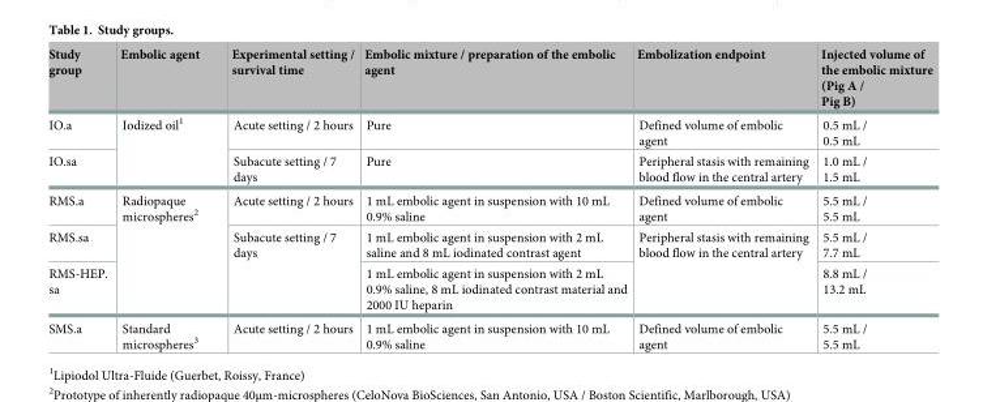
<table><thead><tr><td>Study group</td><td>Embolic agent</td><td>Experimental setting / survival time</td><td>Embolic mixture / preparation of the embolic agent</td><td>Embolization endpoint</td><td>Injected volume of the embolic mixture (Pig A / Pig B)</td></tr></thead><tbody><tr><td>IO.a</td><td rowspan="2">Iodized oil<sup>1</sup></td><td>Acute setting / 2 hours</td><td>Pure</td><td>Defined volume of embolic agent</td><td>0.5 mL / 0.5 mL</td></tr><tr><td>IO.sa</td><td>Subacute setting / 7 days</td><td>Pure</td><td>Peripheral stasis with remaining blood flow in the central artery</td><td>1.0 mL / 1.5 mL</td></tr><tr><td>RMS.a</td><td rowspan="3">Radiopaque microspheres<sup>2</sup></td><td>Acute setting / 2 hours</td><td>1 mL embolic agent in suspension with 10 mL 0.9% saline</td><td>Defined volume of embolic agent</td><td>5.5 mL / 5.5 mL</td></tr><tr><td>RMS.sa</td><td rowspan="2">Subacute setting / 7 days</td><td>1 mL embolic agent in suspension with 2 mL saline and 8 mL iodinated contrast agent</td><td rowspan="2">Peripheral stasis with remaining blood flow in the central artery</td><td>5.5 mL / 7.7 mL</td></tr><tr><td>RMS-HEP. sa</td><td>1 mL embolic agent in suspension with 2 mL 0.9% saline, 8 mL iodinated contrast material and 2000 IU heparin</td><td>8.8 mL / 13.2 mL</td></tr><tr><td>SMS.a</td><td>Standard microspheres<sup>3</sup></td><td>Acute setting / 2 hours</td><td>1 mL embolic agent in suspension with 10 mL 0.9% saline</td><td>Defined volume of embolic agent</td><td>5.5 mL / 5.5 mL</td></tr></tbody></table>